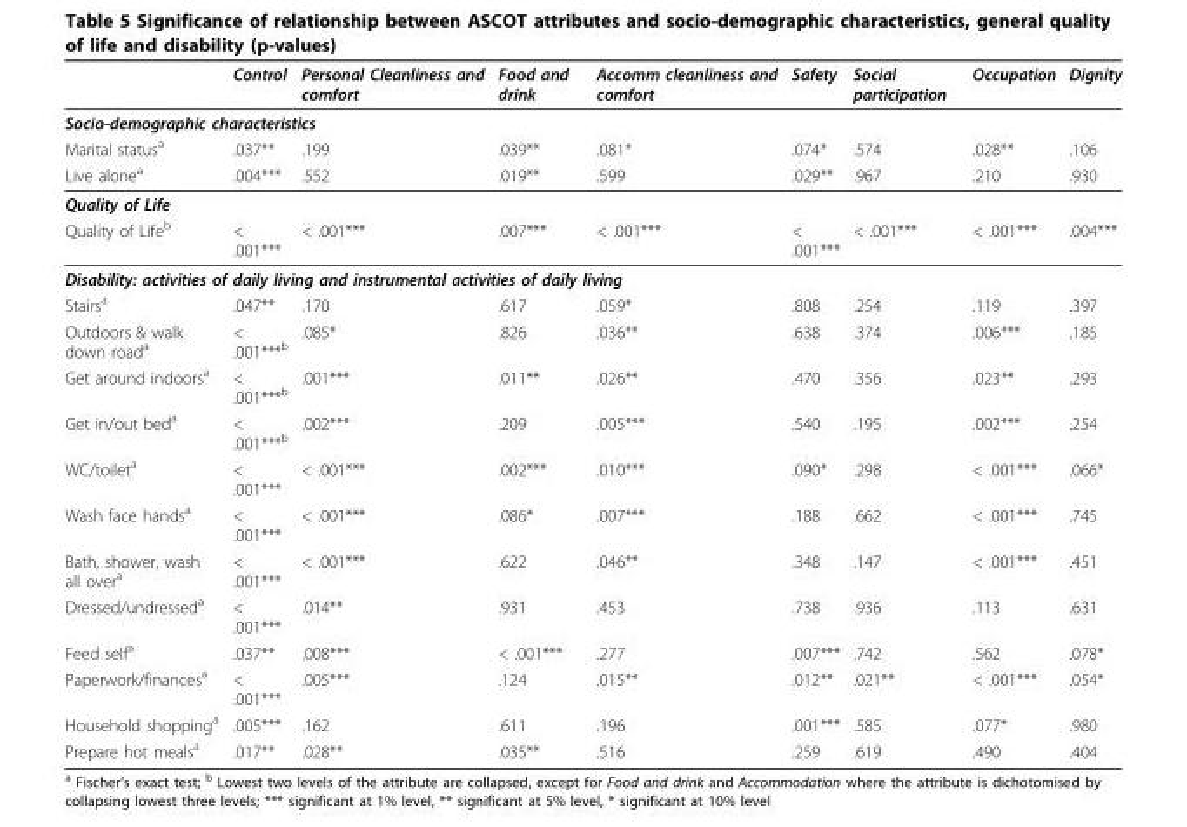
<table><thead><tr><td></td><td>Control</td><td>Personal Cleanliness and comfort</td><td>Food and drink</td><td>Accomm cleanliness and comfort</td><td>Safety</td><td>Social participation</td><td>Occupation</td><td>Dignity</td></tr></thead><tbody><tr><td colspan="9">Socio-demographic characteristics</td></tr><tr><td>Marital status<sup>a</sup></td><td>.037**</td><td>.199</td><td>.039**</td><td>.081*</td><td>.074*</td><td>.574</td><td>.028**</td><td>.106</td></tr><tr><td>Live alone<sup>a</sup></td><td>.004***</td><td>.552</td><td>.019**</td><td>.599</td><td>.029**</td><td>.967</td><td>.210</td><td>.930</td></tr><tr><td colspan="9">Quality of Life</td></tr><tr><td>Quality of Life<sup>b</sup></td><td>&lt; .001***</td><td>&lt; .001***</td><td>.007***</td><td>&lt; .001***</td><td>&lt; .001***</td><td>&lt; .001***</td><td>&lt; .001***</td><td>.004***</td></tr><tr><td colspan="9">Disability: activities of daily living and instrumental activities of daily living</td></tr><tr><td>Stairs<sup>a</sup></td><td>.047**</td><td>.170</td><td>.617</td><td>.059*</td><td>.808</td><td>.254</td><td>.119</td><td>.397</td></tr><tr><td>Outdoors &amp; walk down road<sup>a</sup></td><td>&lt; .001***<sup>b</sup></td><td>.085*</td><td>.826</td><td>.036**</td><td>.638</td><td>.374</td><td>.006***</td><td>.185</td></tr><tr><td>Get around indoors<sup>a</sup></td><td>&lt; .001***<sup>b</sup></td><td>.001***</td><td>.011**</td><td>.026**</td><td>.470</td><td>.356</td><td>.023**</td><td>.293</td></tr><tr><td>Get in/out bed<sup>a</sup></td><td>&lt; .001***<sup>b</sup></td><td>.002***</td><td>.209</td><td>.005***</td><td>.540</td><td>.195</td><td>.002***</td><td>.254</td></tr><tr><td>WC/toilet<sup>a</sup></td><td>&lt; .001***</td><td>&lt; .001***</td><td>.002***</td><td>.010***</td><td>.090*</td><td>.298</td><td>&lt; .001***</td><td>.066*</td></tr><tr><td>Wash face hands<sup>a</sup></td><td>&lt; .001***</td><td>&lt; .001***</td><td>.086*</td><td>.007***</td><td>.188</td><td>.662</td><td>&lt; .001***</td><td>.745</td></tr><tr><td>Bath, shower, wash all over<sup>a</sup></td><td>&lt; .001***</td><td>&lt; .001***</td><td>.622</td><td>.046**</td><td>.348</td><td>.147</td><td>&lt; .001***</td><td>.451</td></tr><tr><td>Dressed/undressed<sup>a</sup></td><td>&lt; .001***</td><td>.014**</td><td>.931</td><td>.453</td><td>.738</td><td>.936</td><td>.113</td><td>.631</td></tr><tr><td>Feed self<sup>a</sup></td><td>.037**</td><td>.008***</td><td>&lt; .001***</td><td>.277</td><td>.007***</td><td>.742</td><td>.562</td><td>.078*</td></tr><tr><td>Paperwork/finances<sup>a</sup></td><td>&lt; .001***</td><td>.005***</td><td>.124</td><td>.015**</td><td>.012**</td><td>.021**</td><td>&lt; .001***</td><td>.054*</td></tr><tr><td>Household shopping<sup>a</sup></td><td>.005***</td><td>.162</td><td>.611</td><td>.196</td><td>.001***</td><td>.585</td><td>.077*</td><td>.980</td></tr><tr><td>Prepare hot meals<sup>a</sup></td><td>.017**</td><td>.028**</td><td>.035**</td><td>.516</td><td>.259</td><td>.619</td><td>.490</td><td>.404</td></tr></tbody></table>